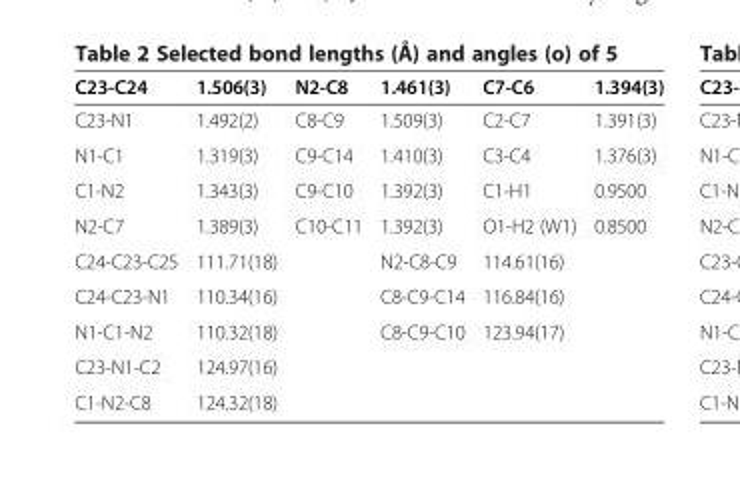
<table><thead><tr><td>C23-C24</td><td>1.506(3)</td><td>N2-C8</td><td>1.461(3)</td><td>C7-C6</td><td>1.394(3)</td></tr></thead><tbody><tr><td>C23-N1</td><td>1.492(2)</td><td>C8-C9</td><td>1.509(3)</td><td>C2-C7</td><td>1.391(3)</td></tr><tr><td>N1-C1</td><td>1.319(3)</td><td>C9-C14</td><td>1.410(3)</td><td>C3-C4</td><td>1.376(3)</td></tr><tr><td>C1-N2</td><td>1.343(3)</td><td>C9-C10</td><td>1.392(3)</td><td>C1-H1</td><td>0.9500</td></tr><tr><td>N2-C7</td><td>1.389(3)</td><td>C10-C11</td><td>1.392(3)</td><td>O1-H2 (W1)</td><td>0.8500</td></tr><tr><td>C24-C23-C25</td><td>111.71(18)</td><td></td><td>N2-C8-C9</td><td>114.61(16)</td><td></td></tr><tr><td>C24-C23-N1</td><td>110.34(16)</td><td></td><td>C8-C9-C14</td><td>116.84(16)</td><td></td></tr><tr><td>N1-C1-N2</td><td>110.32(18)</td><td></td><td>C8-C9-C10</td><td>123.94(17)</td><td></td></tr><tr><td>C23-N1-C2</td><td>124.97(16)</td><td></td><td></td><td></td><td></td></tr><tr><td>C1-N2-C8</td><td>124.32(18)</td><td></td><td></td><td></td><td></td></tr></tbody></table>